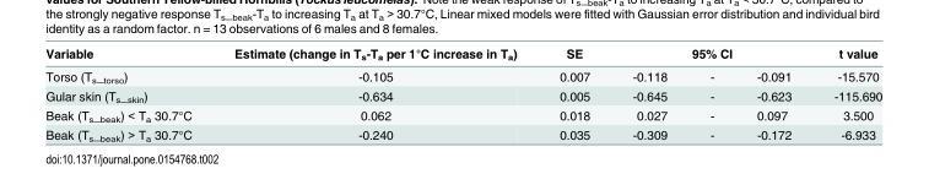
<table><thead><tr><td rowspan="2">Variable Torso (Ts_torso)</td><td rowspan="2">Estimate (change in T<sub>s</sub>-T<sub>a</sub> per 1°C increase in T<sub>a</sub>) -0.105</td><td rowspan="2">SE 0.007</td><td colspan="3">95% CI</td><td rowspan="2">t value -15.570</td></tr><tr><td>-0.118</td><td>-</td><td>-0.091</td></tr></thead><tbody><tr><td>Gular skin (Ts_skin)</td><td>-0.634</td><td>0.005</td><td>-0.645</td><td>-</td><td>-0.623</td><td>-115.690</td></tr><tr><td>Beak (Ts_beak) &lt; Ta 30.7°C</td><td>0.062</td><td>0.018</td><td>0.027</td><td>-</td><td>0.097</td><td>3.500</td></tr><tr><td>Beak (Ts_beak) &gt; Ta 30.7°C</td><td>-0.240</td><td>0.035</td><td>-0.309</td><td>-</td><td>-0.172</td><td>-6.933</td></tr></tbody></table>